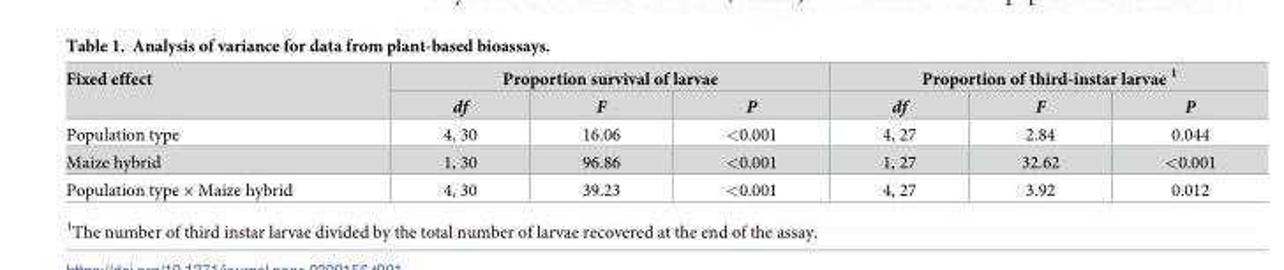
<table><thead><tr><td rowspan="2">Fixed effect</td><td colspan="3">Proportion survival of larvae</td><td colspan="3">Proportion of third-instar larvae <sup>1</sup></td></tr><tr><td>df</td><td>F</td><td>P</td><td>df</td><td>F</td><td>P</td></tr></thead><tbody><tr><td>Population type</td><td>4, 30</td><td>16.06</td><td>&lt;0.001</td><td>4, 27</td><td>2.84</td><td>0.044</td></tr><tr><td>Maize hybrid</td><td>1, 30</td><td>96.86</td><td>&lt;0.001</td><td>1, 27</td><td>32.62</td><td>&lt;0.001</td></tr><tr><td>Population type × Maize hybrid</td><td>4, 30</td><td>39.23</td><td>&lt;0.001</td><td>4, 27</td><td>3.92</td><td>0.012</td></tr></tbody></table>